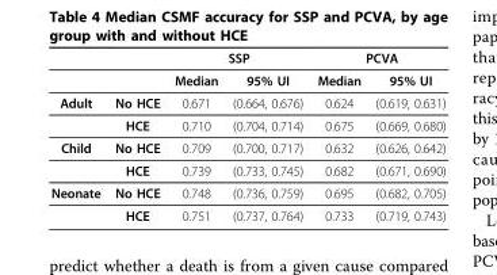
<table><thead><tr><td rowspan="2"></td><td rowspan="2"></td><td colspan="2">SSP</td><td colspan="2">PCVA</td></tr><tr><td>Median</td><td>95% UI</td><td>Median</td><td>95% UI</td></tr></thead><tbody><tr><td rowspan="2">Adult</td><td>No HCE</td><td>0.671</td><td>(0.664, 0.676)</td><td>0.624</td><td>(0.619, 0.631)</td></tr><tr><td>HCE</td><td>0.710</td><td>(0.704, 0.714)</td><td>0.675</td><td>(0.669, 0.680)</td></tr><tr><td rowspan="2">Child</td><td>No HCE</td><td>0.709</td><td>(0.700, 0.717)</td><td>0.632</td><td>(0.626, 0.642)</td></tr><tr><td>HCE</td><td>0.739</td><td>(0.733, 0.745)</td><td>0.682</td><td>(0.671, 0.690)</td></tr><tr><td rowspan="2">Neonate</td><td>No HCE</td><td>0.748</td><td>(0.736, 0.759)</td><td>0.695</td><td>(0.682, 0.705)</td></tr><tr><td>HCE</td><td>0.751</td><td>(0.737, 0.764)</td><td>0.733</td><td>(0.719, 0.743)</td></tr></tbody></table>